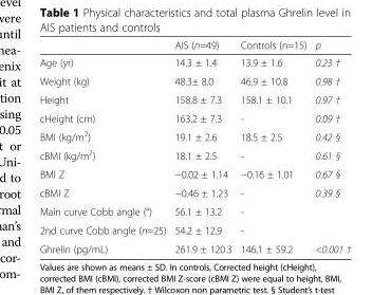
<table><thead><tr><td></td><td>AIS (n=49)</td><td>Controls (n=15)</td><td>p</td></tr></thead><tbody><tr><td>Age (yr)</td><td>14.3 ± 1.4</td><td>13.9 ± 1.6</td><td>0.23 †</td></tr><tr><td>Weight (kg)</td><td>48.3± 8.0</td><td>46.9 ± 10.8</td><td>0.98 †</td></tr><tr><td>Height</td><td>158.8 ± 7.3</td><td>158.1 ± 10.1</td><td>0.97 †</td></tr><tr><td>cHeight (cm)</td><td>163.2 ± 7.3</td><td>-</td><td>0.09 †</td></tr><tr><td>BMI (kg/m<sup>2</sup>)</td><td>19.1 ± 2.6</td><td>18.5 ± 2.5</td><td>0.42 §</td></tr><tr><td>cBMI (kg/m<sup>2</sup>)</td><td>18.1 ± 2.5</td><td>-</td><td>0.61 §</td></tr><tr><td>BMI Z</td><td>−0.02 ± 1.14</td><td>−0.16 ± 1.01</td><td>0.67 §</td></tr><tr><td>cBMI Z</td><td>−0.46 ± 1.23</td><td>-</td><td>0.39 §</td></tr><tr><td>Main curve Cobb angle (°)</td><td>56.1 ± 13.2</td><td>-</td><td></td></tr><tr><td>2nd curve Cobb angle (n=25)</td><td>54.2 ± 12.9</td><td>-</td><td></td></tr><tr><td>Ghrelin (pg/mL)</td><td>261.9 ± 120.3</td><td>146.1 ± 59.2</td><td>&lt;0.001 †</td></tr></tbody></table>